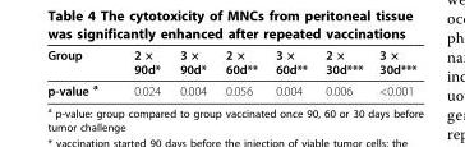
<table><thead><tr><td>Group</td><td>2 × 90d*</td><td>3 × 90d*</td><td>2 × 60d**</td><td>3 × 60d**</td><td>2 × 30d***</td><td>3 × 30d***</td></tr></thead><tbody><tr><td>p-value <sup>a</sup></td><td>0.024</td><td>0.004</td><td>0.056</td><td>0.004</td><td>0.006</td><td>&lt;0.001</td></tr></tbody></table>